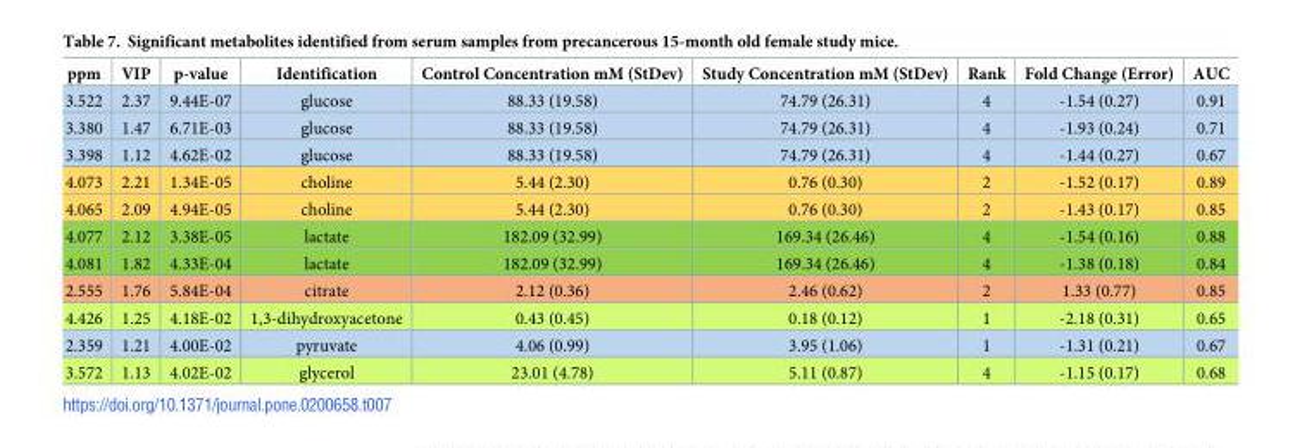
<table><thead><tr><td>ppm</td><td>VIP</td><td>p-value</td><td>Identification</td><td>Control Concentration mM (StDev)</td><td>Study Concentration mM (StDev)</td><td>Rank</td><td>Fold Change (Error)</td><td>AUC</td></tr></thead><tbody><tr><td>3.522</td><td>2.37</td><td>9.44E-07</td><td>glucose</td><td>88.33 (19.58)</td><td>74.79 (26.31)</td><td>4</td><td>-1.54 (0.27)</td><td>0.91</td></tr><tr><td>3.380</td><td>1.47</td><td>6.71E-03</td><td>glucose</td><td>88.33 (19.58)</td><td>74.79 (26.31)</td><td>4</td><td>-1.93 (0.24)</td><td>0.71</td></tr><tr><td>3.398</td><td>1.12</td><td>4.62E-02</td><td>glucose</td><td>88.33 (19.58)</td><td>74.79 (26.31)</td><td>4</td><td>-1.44 (0.27)</td><td>0.67</td></tr><tr><td>4.073</td><td>2.21</td><td>1.34E-05</td><td>choline</td><td>5.44 (2.30)</td><td>0.76 (0.30)</td><td>2</td><td>-1.52 (0.17)</td><td>0.89</td></tr><tr><td>4.065</td><td>2.09</td><td>4.94E-05</td><td>choline</td><td>5.44 (2.30)</td><td>0.76 (0.30)</td><td>2</td><td>-1.43 (0.17)</td><td>0.85</td></tr><tr><td>4.077</td><td>2.12</td><td>3.38E-05</td><td>lactate</td><td>182.09 (32.99)</td><td>169.34 (26.46)</td><td>4</td><td>-1.54 (0.16)</td><td>0.88</td></tr><tr><td>4.081</td><td>1.82</td><td>4.33E-04</td><td>lactate</td><td>182.09 (32.99)</td><td>169.34 (26.46)</td><td>4</td><td>-1.38 (0.18)</td><td>0.84</td></tr><tr><td>2.555</td><td>1.76</td><td>5.84E-04</td><td>citrate</td><td>2.12 (0.36)</td><td>2.46 (0.62)</td><td>2</td><td>1.33 (0.77)</td><td>0.85</td></tr><tr><td>4.426</td><td>1.25</td><td>4.18E-02</td><td>1,3-dihydroxyacetone</td><td>0.43 (0.45)</td><td>0.18 (0.12)</td><td>1</td><td>-2.18 (0.31)</td><td>0.65</td></tr><tr><td>2.359</td><td>1.21</td><td>4.00E-02</td><td>pyruvate</td><td>4.06 (0.99)</td><td>3.95 (1.06)</td><td>1</td><td>-1.31 (0.21)</td><td>0.67</td></tr><tr><td>3.572</td><td>1.13</td><td>4.02E-02</td><td>glycerol</td><td>23.01 (4.78)</td><td>5.11 (0.87)</td><td>4</td><td>-1.15 (0.17)</td><td>0.68</td></tr></tbody></table>